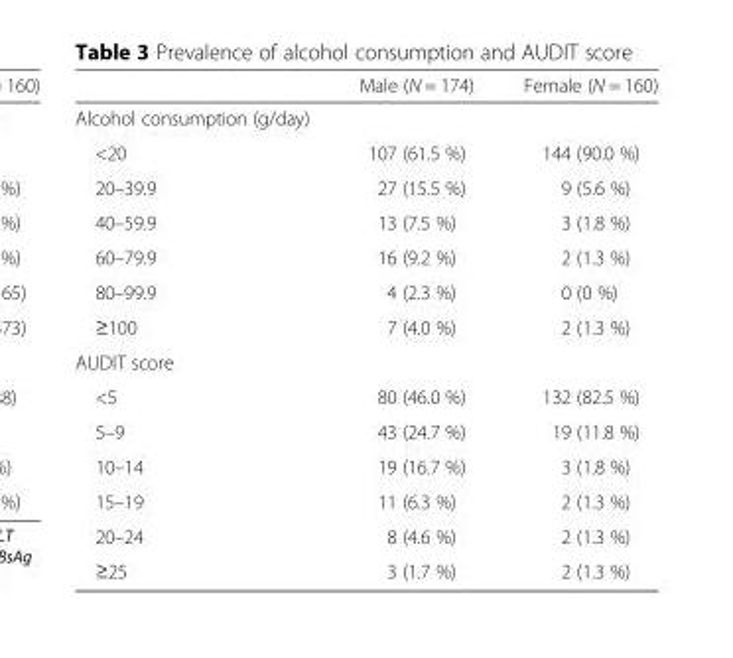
<table><thead><tr><td></td><td>Male (N = 174)</td><td>Female (N = 160)</td></tr></thead><tbody><tr><td colspan="3">Alcohol consumption (g/day)</td></tr><tr><td>&lt;20</td><td>107 (61.5 %)</td><td>144 (90.0 %)</td></tr><tr><td>20–39.9</td><td>27 (15.5 %)</td><td>9 (5.6 %)</td></tr><tr><td>40–59.9</td><td>13 (7.5 %)</td><td>3 (1.8 %)</td></tr><tr><td>60–79.9</td><td>16 (9.2 %)</td><td>2 (1.3 %)</td></tr><tr><td>80–99.9</td><td>4 (2.3 %)</td><td>0 (0 %)</td></tr><tr><td>≥100</td><td>7 (4.0 %)</td><td>2 (1.3 %)</td></tr><tr><td colspan="3">AUDIT score</td></tr><tr><td>&lt;5</td><td>80 (46.0 %)</td><td>132 (82.5 %)</td></tr><tr><td>5–9</td><td>43 (24.7 %)</td><td>19 (11.8 %)</td></tr><tr><td>10–14</td><td>19 (16.7 %)</td><td>3 (1.8 %)</td></tr><tr><td>15–19</td><td>11 (6.3 %)</td><td>2 (1.3 %)</td></tr><tr><td>20–24</td><td>8 (4.6 %)</td><td>2 (1.3 %)</td></tr><tr><td>≥25</td><td>3 (1.7 %)</td><td>2 (1.3 %)</td></tr></tbody></table>